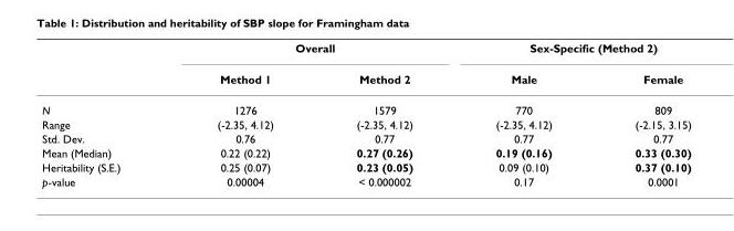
<table><thead><tr><td rowspan="2"></td><td colspan="2">Overall</td><td colspan="2">Sex-Specific (Method 2)</td></tr><tr><td>Method 1</td><td>Method 2</td><td>Male</td><td>Female</td></tr></thead><tbody><tr><td>N</td><td>1276</td><td>1579</td><td>770</td><td>809</td></tr><tr><td>Range</td><td>(-2.35, 4.12)</td><td>(-2.35, 4.12)</td><td>(-2.35, 4.12)</td><td>(-2.15, 3.15)</td></tr><tr><td>Std. Dev.</td><td>0.76</td><td>0.77</td><td>0.77</td><td>0.77</td></tr><tr><td>Mean (Median)</td><td>0.22 (0.22)</td><td>0.27 (0.26)</td><td>0.19 (0.16)</td><td>0.33 (0.30)</td></tr><tr><td>Heritability (S.E.)</td><td>0.25 (0.07)</td><td>0.23 (0.05)</td><td>0.09 (0.10)</td><td>0.37 (0.10)</td></tr><tr><td>p-value</td><td>0.00004</td><td>&lt; 0.000002</td><td>0.17</td><td>0.0001</td></tr></tbody></table>